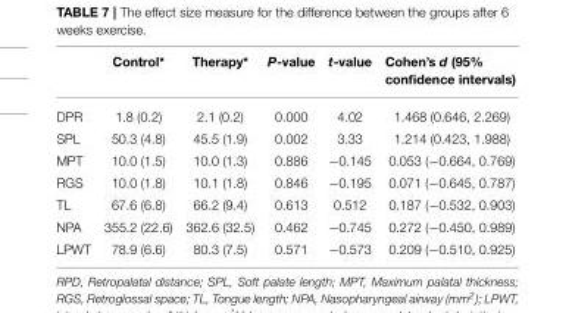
<table><thead><tr><td></td><td>Control*</td><td>Therapy*</td><td>P-value</td><td>t-value</td><td>Cohen’s d (95% confidence intervals)</td></tr></thead><tbody><tr><td>DPR</td><td>1.8 (0.2)</td><td>2.1 (0.2)</td><td>0.000</td><td>4.02</td><td>1.468 (0.646, 2.269)</td></tr><tr><td>SPL</td><td>50.3 (4.8)</td><td>45.5 (1.9)</td><td>0.002</td><td>3.33</td><td>1.214 (0.423, 1.988)</td></tr><tr><td>MPT</td><td>10.0 (1.5)</td><td>10.0 (1.3)</td><td>0.886</td><td>−0.145</td><td>0.053 (−0.664, 0.769)</td></tr><tr><td>RGS</td><td>10.0 (1.8)</td><td>10.1 (1.8)</td><td>0.846</td><td>−0.195</td><td>0.071 (−0.645, 0.787)</td></tr><tr><td>TL</td><td>67.6 (6.8)</td><td>66.2 (9.4)</td><td>0.613</td><td>0.512</td><td>0.187 (−0.532, 0.903)</td></tr><tr><td>NPA</td><td>355.2 (22.6)</td><td>362.6 (32.5)</td><td>0.462</td><td>−0.745</td><td>0.272 (−0.450, 0.989)</td></tr><tr><td>LPWT</td><td>78.9 (6.6)</td><td>80.3 (7.5)</td><td>0.571</td><td>−0.573</td><td>0.209 (−0.510, 0.925)</td></tr></tbody></table>